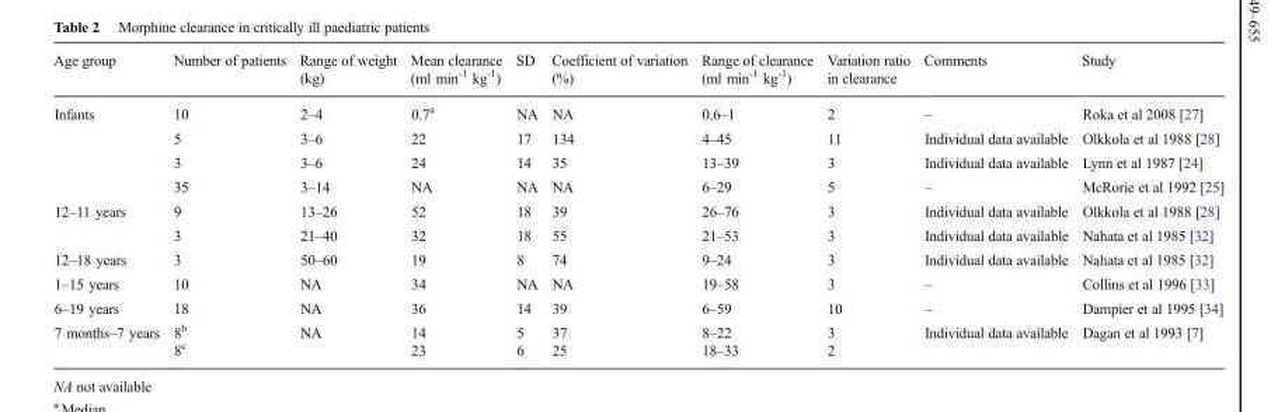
<table><thead><tr><td>Age group</td><td>Number of patients</td><td>Range of weight (kg)</td><td>Mean clearance (ml min<sup>-1</sup> kg<sup>-1</sup>)</td><td>SD</td><td>Coefficient of variation (%)</td><td>Range of clearance (ml min<sup>-1</sup> kg<sup>-1</sup>)</td><td>Variation ratio in clearance</td><td>Comments</td><td>Study</td></tr></thead><tbody><tr><td rowspan="4">Infants</td><td>10</td><td>2–4</td><td>0.7<sup>a</sup></td><td>NA</td><td>NA</td><td>0.6–1</td><td>2</td><td>–</td><td>Roka et al 2008 [27]</td></tr><tr><td>5</td><td>3–6</td><td>22</td><td>17</td><td>134</td><td>4–45</td><td>11</td><td>Individual data available</td><td>Olkkola et al 1988 [28]</td></tr><tr><td>3</td><td>3–6</td><td>24</td><td>14</td><td>35</td><td>13–39</td><td>3</td><td>Individual data available</td><td>Lynn et al 1987 [24]</td></tr><tr><td>35</td><td>3–14</td><td>NA</td><td>NA</td><td>NA</td><td>6–29</td><td>5</td><td>–</td><td>McRorie et al 1992 [25]</td></tr><tr><td rowspan="2">12–11 years</td><td>9</td><td>13–26</td><td>52</td><td>18</td><td>39</td><td>26–76</td><td>3</td><td>Individual data available</td><td>Olkkola et al 1988 [28]</td></tr><tr><td>3</td><td>21–40</td><td>32</td><td>18</td><td>55</td><td>21–53</td><td>3</td><td>Individual data available</td><td>Nahata et al 1985 [32]</td></tr><tr><td>12–18 years</td><td>3</td><td>50–60</td><td>19</td><td>8</td><td>74</td><td>9–24</td><td>3</td><td>Individual data available</td><td>Nahata et al 1985 [32]</td></tr><tr><td>1–15 years</td><td>10</td><td>NA</td><td>34</td><td>NA</td><td>NA</td><td>19–58</td><td>3</td><td>–</td><td>Collins et al 1996 [33]</td></tr><tr><td>6–19 years</td><td>18</td><td>NA</td><td>36</td><td>14</td><td>39</td><td>6–59</td><td>10</td><td>–</td><td>Dampier et al 1995 [34]</td></tr><tr><td>7 months–7 years</td><td>8<sup>b</sup> 8<sup>c</sup></td><td>NA</td><td>14 23</td><td>5 6</td><td>37 25</td><td>8–22 18–33</td><td>3 2</td><td>Individual data available</td><td>Dagan et al 1993 [7]</td></tr></tbody></table>